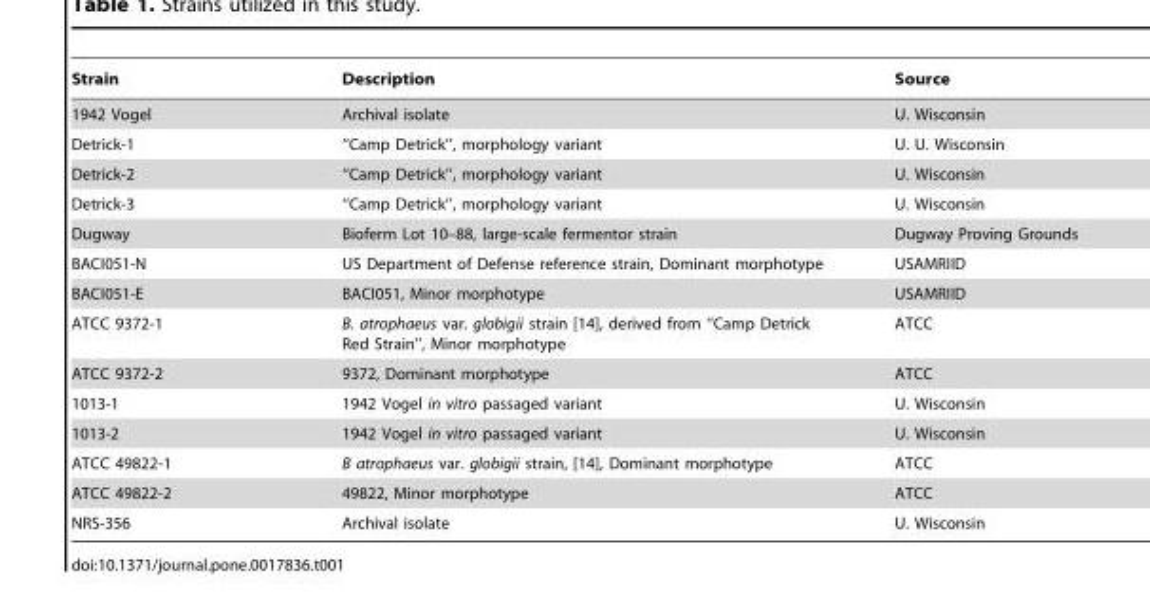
<table><thead><tr><td>Strain</td><td>Description</td><td>Source</td></tr></thead><tbody><tr><td>1942 Vogel</td><td>Archival isolate</td><td>U. Wisconsin</td></tr><tr><td>Detrick-1</td><td>‘‘Camp Detrick’’, morphology variant</td><td>U. U. Wisconsin</td></tr><tr><td>Detrick-2</td><td>‘‘Camp Detrick’’, morphology variant</td><td>U. Wisconsin</td></tr><tr><td>Detrick-3</td><td>‘‘Camp Detrick’’, morphology variant</td><td>U. Wisconsin</td></tr><tr><td>Dugway</td><td>Bioferm Lot 10–88, large-scale fermentor strain</td><td>Dugway Proving Grounds</td></tr><tr><td>BACI051-N</td><td>US Department of Defense reference strain, Dominant morphotype</td><td>USAMRIID</td></tr><tr><td>BACI051-E</td><td>BACI051, Minor morphotype</td><td>USAMRIID</td></tr><tr><td>ATCC 9372-1</td><td>B. atrophaeus var. globigii strain [14], derived from ‘‘Camp Detrick Red Strain’’, Minor morphotype</td><td>ATCC</td></tr><tr><td>ATCC 9372-2</td><td>9372, Dominant morphotype</td><td>ATCC</td></tr><tr><td>1013-1</td><td>1942 Vogel in vitro passaged variant</td><td>U. Wisconsin</td></tr><tr><td>1013-2</td><td>1942 Vogel in vitro passaged variant</td><td>U. Wisconsin</td></tr><tr><td>ATCC 49822-1</td><td>B atrophaeus var. globigii strain, [14], Dominant morphotype</td><td>ATCC</td></tr><tr><td>ATCC 49822-2</td><td>49822, Minor morphotype</td><td>ATCC</td></tr><tr><td>NRS-356</td><td>Archival isolate</td><td>U. Wisconsin</td></tr></tbody></table>